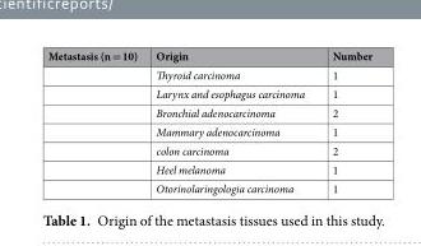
<table><thead><tr><td>Metastasis (n = 10)</td><td>Origin</td><td>Number</td></tr></thead><tbody><tr><td></td><td>Thyroid carcinoma</td><td>1</td></tr><tr><td></td><td>Larynx and esophagus carcinoma</td><td>1</td></tr><tr><td></td><td>Bronchial adenocarcinoma</td><td>2</td></tr><tr><td></td><td>Mammary adenocarcinoma</td><td>1</td></tr><tr><td></td><td>colon carcinoma</td><td>2</td></tr><tr><td></td><td>Heel melanoma</td><td>1</td></tr><tr><td></td><td>Otorinolaringologia carcinoma</td><td>1</td></tr></tbody></table>